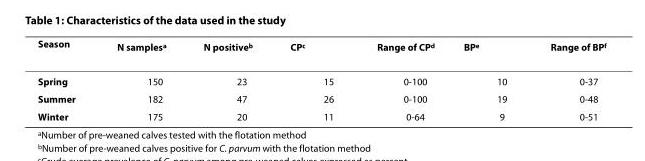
<table><thead><tr><td>Season</td><td>N samples<sup>a</sup></td><td>N positive<sup>b</sup></td><td>CP<sup>c</sup></td><td>Range of CP<sup>d</sup></td><td>BP<sup>e</sup></td><td>Range of BP<sup>f</sup></td></tr></thead><tbody><tr><td>Spring</td><td>150</td><td>23</td><td>15</td><td>0-100</td><td>10</td><td>0-37</td></tr><tr><td>Summer</td><td>182</td><td>47</td><td>26</td><td>0-100</td><td>19</td><td>0-48</td></tr><tr><td>Winter</td><td>175</td><td>20</td><td>11</td><td>0-64</td><td>9</td><td>0-51</td></tr></tbody></table>